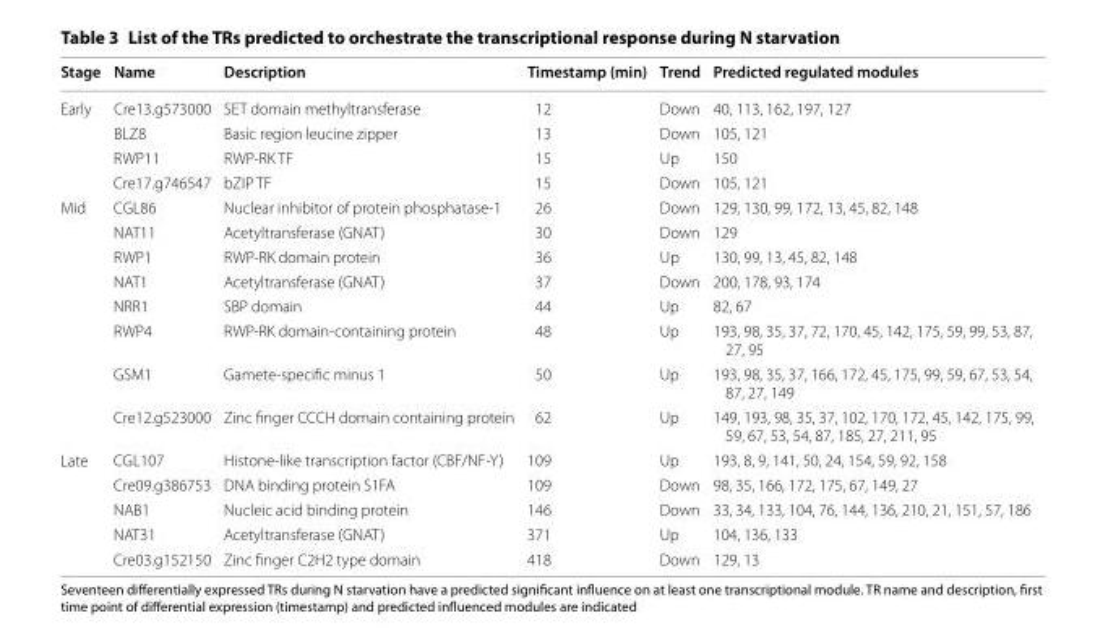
<table><thead><tr><td>Stage</td><td>Name</td><td>Description</td><td>Timestamp (min)</td><td>Trend</td><td>Predicted regulated modules</td></tr></thead><tbody><tr><td rowspan="4">Early</td><td>Cre13.g573000</td><td>SET domain methyltransferase</td><td>12</td><td>Down</td><td>40, 113, 162, 197, 127</td></tr><tr><td>BLZ8</td><td>Basic region leucine zipper</td><td>13</td><td>Down</td><td>105, 121</td></tr><tr><td>RWP11</td><td>RWP-RK TF</td><td>15</td><td>Up</td><td>150</td></tr><tr><td>Cre17.g746547</td><td>bZIP TF</td><td>15</td><td>Down</td><td>105, 121</td></tr><tr><td rowspan="8">Mid</td><td>CGL86</td><td>Nuclear inhibitor of protein phosphatase-1</td><td>26</td><td>Down</td><td>129, 130, 99, 172, 13, 45, 82, 148</td></tr><tr><td>NAT11</td><td>Acetyltransferase (GNAT)</td><td>30</td><td>Down</td><td>129</td></tr><tr><td>RWP1</td><td>RWP-RK domain protein</td><td>36</td><td>Up</td><td>130, 99, 13, 45, 82, 148</td></tr><tr><td>NAT1</td><td>Acetyltransferase (GNAT)</td><td>37</td><td>Down</td><td>200, 178, 93, 174</td></tr><tr><td>NRR1</td><td>SBP domain</td><td>44</td><td>Up</td><td>82, 67</td></tr><tr><td>RWP4</td><td>RWP-RK domain-containing protein</td><td>48</td><td>Up</td><td>193, 98, 35, 37, 72, 170, 45, 142, 175, 59, 99, 53, 87, 27, 95</td></tr><tr><td>GSM1</td><td>Gamete-specific minus 1</td><td>50</td><td>Up</td><td>193, 98, 35, 37, 166, 172, 45, 175, 99, 59, 67, 53, 54, 87, 27, 149</td></tr><tr><td>Cre12.g523000</td><td>Zinc finger CCCH domain containing protein</td><td>62</td><td>Up</td><td>149, 193, 98, 35, 37, 102, 170, 172, 45, 142, 175, 99, 59, 67, 53, 54, 87, 185, 27, 211, 95</td></tr><tr><td rowspan="5">Late</td><td>CGL107</td><td>Histone-like transcription factor (CBF/NF-Y)</td><td>109</td><td>Up</td><td>193, 8, 9, 141, 50, 24, 154, 59, 92, 158</td></tr><tr><td>Cre09.g386753</td><td>DNA binding protein S1FA</td><td>109</td><td>Down</td><td>98, 35, 166, 172, 175, 67, 149, 27</td></tr><tr><td>NAB1</td><td>Nucleic acid binding protein</td><td>146</td><td>Down</td><td>33, 34, 133, 104, 76, 144, 136, 210, 21, 151, 57, 186</td></tr><tr><td>NAT31</td><td>Acetyltransferase (GNAT)</td><td>371</td><td>Up</td><td>104, 136, 133</td></tr><tr><td>Cre03.g152150</td><td>Zinc finger C2H2 type domain</td><td>418</td><td>Down</td><td>129, 13</td></tr></tbody></table>